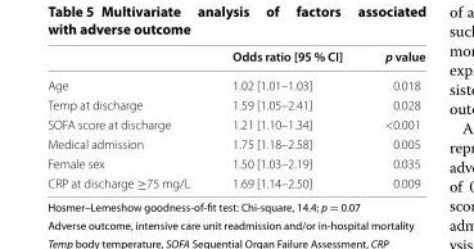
<table><thead><tr><td></td><td>Odds ratio [95 % CI]</td><td>p value</td></tr></thead><tbody><tr><td>Age</td><td>1.02 [1.01–1.03]</td><td>0.018</td></tr><tr><td>Temp at discharge</td><td>1.59 [1.05–2.41]</td><td>0.028</td></tr><tr><td>SOFA score at discharge</td><td>1.21 [1.10–1.34]</td><td>&lt;0.001</td></tr><tr><td>Medical admission</td><td>1.75 [1.18–2.58]</td><td>0.005</td></tr><tr><td>Female sex</td><td>1.50 [1.03–2.19]</td><td>0.035</td></tr><tr><td>CRP at discharge ≥75 mg/L</td><td>1.69 [1.14–2.50]</td><td>0.009</td></tr></tbody></table>